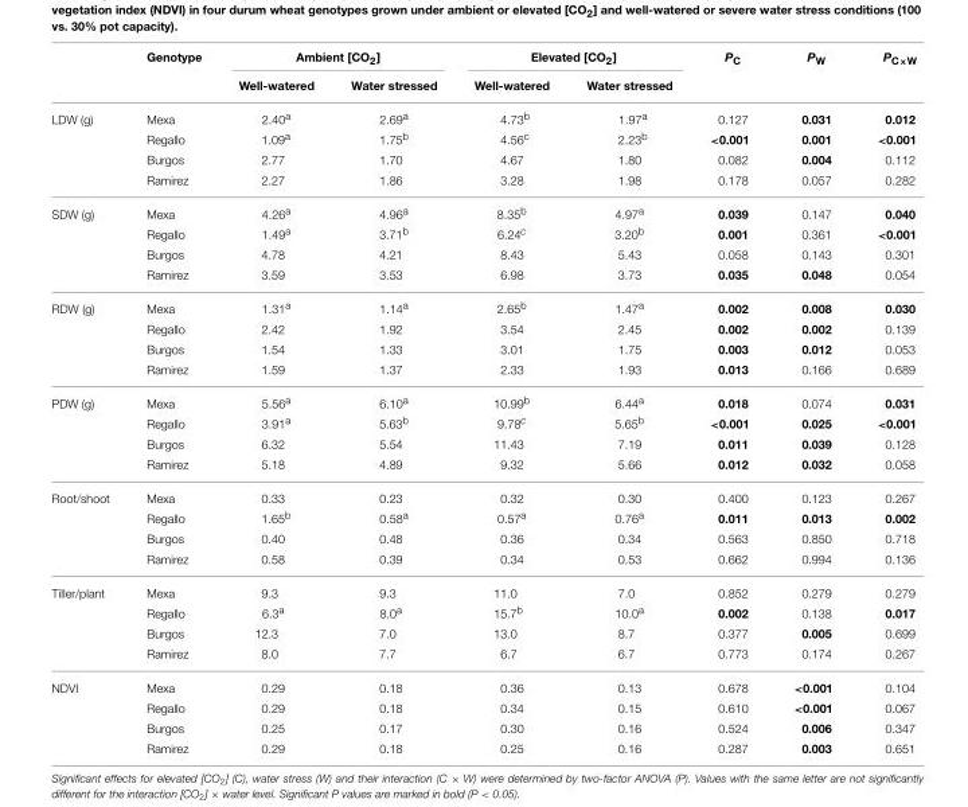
<table><thead><tr><td rowspan="2"></td><td rowspan="2">Genotype</td><td colspan="2">Ambient [CO<sub>2</sub>]</td><td colspan="2">Elevated [CO<sub>2</sub>]</td><td rowspan="2">P<sub>C</sub></td><td rowspan="2">P<sub>W</sub></td><td rowspan="2">P<sub>C×W</sub></td></tr><tr><td>Well-watered</td><td>Water stressed</td><td>Well-watered</td><td>Water stressed</td></tr></thead><tbody><tr><td rowspan="4">LDW (g)</td><td>Mexa</td><td>2.40<sup>a</sup></td><td>2.69<sup>a</sup></td><td>4.73<sup>b</sup></td><td>1.97<sup>a</sup></td><td>0.127</td><td>0.031</td><td>0.012</td></tr><tr><td>Regallo</td><td>1.09<sup>a</sup></td><td>1.75<sup>b</sup></td><td>4.56<sup>c</sup></td><td>2.23<sup>b</sup></td><td>&lt;0.001</td><td>0.001</td><td>&lt;0.001</td></tr><tr><td>Burgos</td><td>2.77</td><td>1.70</td><td>4.67</td><td>1.80</td><td>0.082</td><td>0.004</td><td>0.112</td></tr><tr><td>Ramirez</td><td>2.27</td><td>1.86</td><td>3.28</td><td>1.98</td><td>0.178</td><td>0.057</td><td>0.282</td></tr><tr><td rowspan="4">SDW (g)</td><td>Mexa</td><td>4.26<sup>a</sup></td><td>4.96<sup>a</sup></td><td>8.35<sup>b</sup></td><td>4.97<sup>a</sup></td><td>0.039</td><td>0.147</td><td>0.040</td></tr><tr><td>Regallo</td><td>1.49<sup>a</sup></td><td>3.71<sup>b</sup></td><td>6.24<sup>c</sup></td><td>3.20<sup>b</sup></td><td>0.001</td><td>0.361</td><td>&lt;0.001</td></tr><tr><td>Burgos</td><td>4.78</td><td>4.21</td><td>8.43</td><td>5.43</td><td>0.058</td><td>0.143</td><td>0.301</td></tr><tr><td>Ramirez</td><td>3.59</td><td>3.53</td><td>6.98</td><td>3.73</td><td>0.035</td><td>0.048</td><td>0.054</td></tr><tr><td rowspan="4">RDW (g)</td><td>Mexa</td><td>1.31<sup>a</sup></td><td>1.14<sup>a</sup></td><td>2.65<sup>b</sup></td><td>1.47<sup>a</sup></td><td>0.002</td><td>0.008</td><td>0.030</td></tr><tr><td>Regallo</td><td>2.42</td><td>1.92</td><td>3.54</td><td>2.45</td><td>0.002</td><td>0.002</td><td>0.139</td></tr><tr><td>Burgos</td><td>1.54</td><td>1.33</td><td>3.01</td><td>1.75</td><td>0.003</td><td>0.012</td><td>0.053</td></tr><tr><td>Ramirez</td><td>1.59</td><td>1.37</td><td>2.33</td><td>1.93</td><td>0.013</td><td>0.166</td><td>0.689</td></tr><tr><td rowspan="4">PDW (g)</td><td>Mexa</td><td>5.56<sup>a</sup></td><td>6.10<sup>a</sup></td><td>10.99<sup>b</sup></td><td>6.44<sup>a</sup></td><td>0.018</td><td>0.074</td><td>0.031</td></tr><tr><td>Regallo</td><td>3.91<sup>a</sup></td><td>5.63<sup>b</sup></td><td>9.78<sup>c</sup></td><td>5.65<sup>b</sup></td><td>&lt;0.001</td><td>0.025</td><td>&lt;0.001</td></tr><tr><td>Burgos</td><td>6.32</td><td>5.54</td><td>11.43</td><td>7.19</td><td>0.011</td><td>0.039</td><td>0.128</td></tr><tr><td>Ramirez</td><td>5.18</td><td>4.89</td><td>9.32</td><td>5.66</td><td>0.012</td><td>0.032</td><td>0.058</td></tr><tr><td rowspan="4">Root/shoot</td><td>Mexa</td><td>0.33</td><td>0.23</td><td>0.32</td><td>0.30</td><td>0.400</td><td>0.123</td><td>0.267</td></tr><tr><td>Regallo</td><td>1.65<sup>b</sup></td><td>0.58<sup>a</sup></td><td>0.57<sup>a</sup></td><td>0.76<sup>a</sup></td><td>0.011</td><td>0.013</td><td>0.002</td></tr><tr><td>Burgos</td><td>0.40</td><td>0.48</td><td>0.36</td><td>0.34</td><td>0.563</td><td>0.850</td><td>0.718</td></tr><tr><td>Ramirez</td><td>0.58</td><td>0.39</td><td>0.34</td><td>0.53</td><td>0.662</td><td>0.994</td><td>0.136</td></tr><tr><td rowspan="4">Tiller/plant</td><td>Mexa</td><td>9.3</td><td>9.3</td><td>11.0</td><td>7.0</td><td>0.852</td><td>0.279</td><td>0.279</td></tr><tr><td>Regallo</td><td>6.3<sup>a</sup></td><td>8.0<sup>a</sup></td><td>15.7<sup>b</sup></td><td>10.0<sup>a</sup></td><td>0.002</td><td>0.138</td><td>0.017</td></tr><tr><td>Burgos</td><td>12.3</td><td>7.0</td><td>13.0</td><td>8.7</td><td>0.377</td><td>0.005</td><td>0.699</td></tr><tr><td>Ramirez</td><td>8.0</td><td>7.7</td><td>6.7</td><td>6.7</td><td>0.773</td><td>0.174</td><td>0.267</td></tr><tr><td rowspan="4">NDVI</td><td>Mexa</td><td>0.29</td><td>0.18</td><td>0.36</td><td>0.13</td><td>0.678</td><td>&lt;0.001</td><td>0.104</td></tr><tr><td>Regallo</td><td>0.29</td><td>0.18</td><td>0.34</td><td>0.15</td><td>0.610</td><td>&lt;0.001</td><td>0.067</td></tr><tr><td>Burgos</td><td>0.25</td><td>0.17</td><td>0.30</td><td>0.16</td><td>0.524</td><td>0.006</td><td>0.347</td></tr><tr><td>Ramirez</td><td>0.29</td><td>0.18</td><td>0.25</td><td>0.16</td><td>0.287</td><td>0.003</td><td>0.651</td></tr></tbody></table>